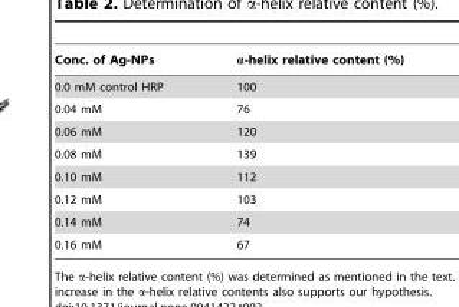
<table><thead><tr><td>Conc. of Ag-NPs</td><td>α-helix relative content (%)</td></tr></thead><tbody><tr><td>0.0 mM control HRP</td><td>100</td></tr><tr><td>0.04 mM</td><td>76</td></tr><tr><td>0.06 mM</td><td>120</td></tr><tr><td>0.08 mM</td><td>139</td></tr><tr><td>0.10 mM</td><td>112</td></tr><tr><td>0.12 mM</td><td>103</td></tr><tr><td>0.14 mM</td><td>74</td></tr><tr><td>0.16 mM</td><td>67</td></tr></tbody></table>